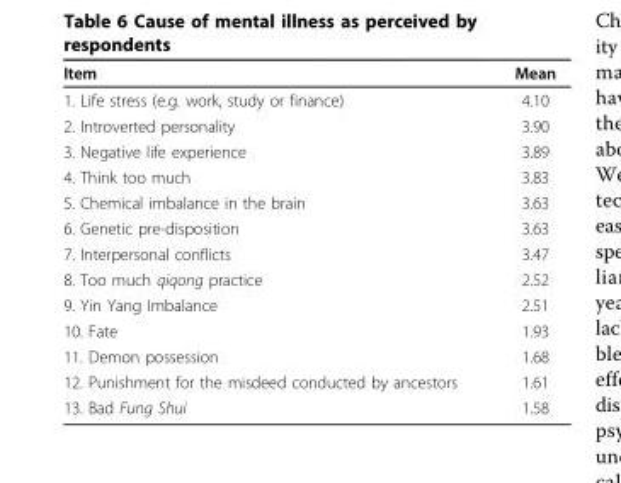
<table><thead><tr><td>Item</td><td>Mean</td></tr></thead><tbody><tr><td>1. Life stress (e.g. work, study or finance)</td><td>4.10</td></tr><tr><td>2. Introverted personality</td><td>3.90</td></tr><tr><td>3. Negative life experience</td><td>3.89</td></tr><tr><td>4. Think too much</td><td>3.83</td></tr><tr><td>5. Chemical imbalance in the brain</td><td>3.63</td></tr><tr><td>6. Genetic pre-disposition</td><td>3.63</td></tr><tr><td>7. Interpersonal conflicts</td><td>3.47</td></tr><tr><td>8. Too much qiqong practice</td><td>2.52</td></tr><tr><td>9. Yin Yang Imbalance</td><td>2.51</td></tr><tr><td>10. Fate</td><td>1.93</td></tr><tr><td>11. Demon possession</td><td>1.68</td></tr><tr><td>12. Punishment for the misdeed conducted by ancestors</td><td>1.61</td></tr><tr><td>13. Bad Fung Shui</td><td>1.58</td></tr></tbody></table>